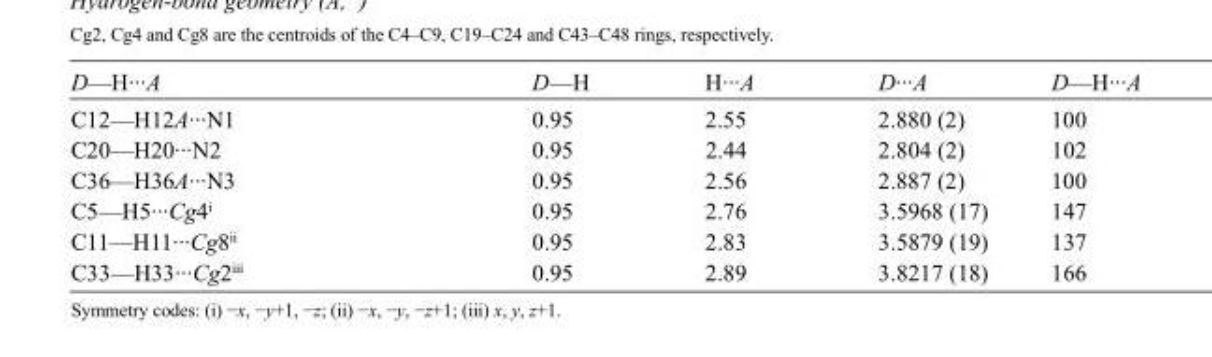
<table><tbody><tr><td>D—H···A</td><td>D—H</td><td>H···A</td><td>D···A</td><td>D—H···A</td></tr><tr><td>C12—H12A···N1</td><td>0.95</td><td>2.55</td><td>2.880 (2)</td><td>100</td></tr><tr><td>C20—H20···N2</td><td>0.95</td><td>2.44</td><td>2.804 (2)</td><td>102</td></tr><tr><td>C36—H36A···N3</td><td>0.95</td><td>2.56</td><td>2.887 (2)</td><td>100</td></tr><tr><td>C5—H5···Cg4<sup>i</sup></td><td>0.95</td><td>2.76</td><td>3.5968 (17)</td><td>147</td></tr><tr><td>C11—H11···Cg8<sup>ii</sup></td><td>0.95</td><td>2.83</td><td>3.5879 (19)</td><td>137</td></tr><tr><td>C33—H33···Cg2<sup>iii</sup></td><td>0.95</td><td>2.89</td><td>3.8217 (18)</td><td>166</td></tr></tbody></table>